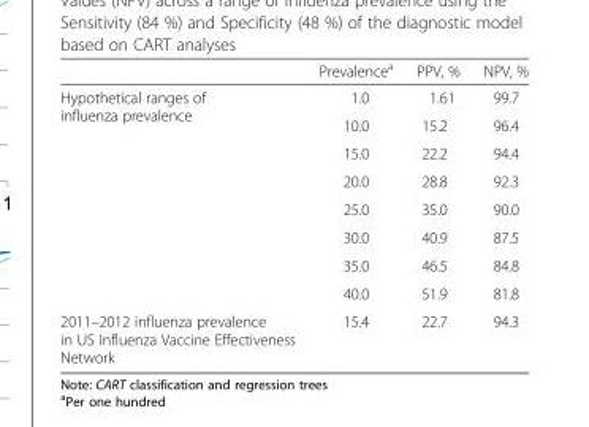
<table><thead><tr><td></td><td>Prevalence<sup>a</sup></td><td>PPV, %</td><td>NPV, %</td></tr></thead><tbody><tr><td rowspan="8">Hypothetical ranges of influenza prevalence</td><td>1.0</td><td>1.61</td><td>99.7</td></tr><tr><td>10.0</td><td>15.2</td><td>96.4</td></tr><tr><td>15.0</td><td>22.2</td><td>94.4</td></tr><tr><td>20.0</td><td>28.8</td><td>92.3</td></tr><tr><td>25.0</td><td>35.0</td><td>90.0</td></tr><tr><td>30.0</td><td>40.9</td><td>87.5</td></tr><tr><td>35.0</td><td>46.5</td><td>84.8</td></tr><tr><td>40.0</td><td>51.9</td><td>81.8</td></tr><tr><td>2011–2012 influenza prevalence in US Influenza Vaccine Effectiveness Network</td><td>15.4</td><td>22.7</td><td>94.3</td></tr></tbody></table>